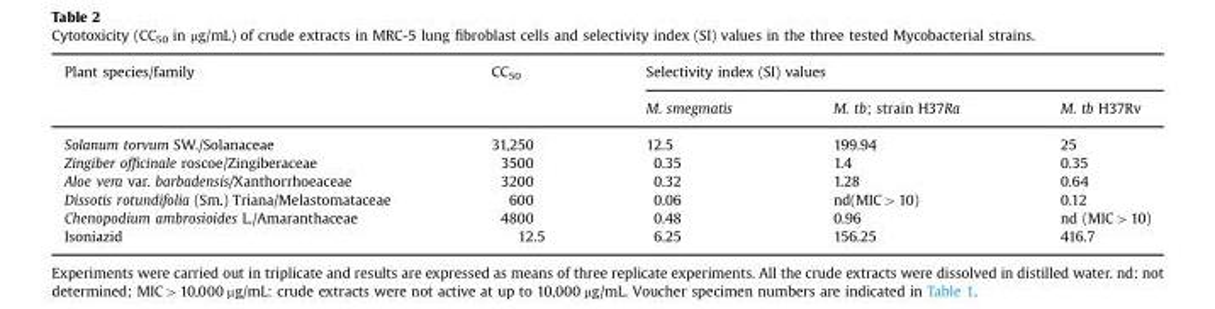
<table><thead><tr><td rowspan="2">Plant species/family</td><td rowspan="2">CC<sub>50</sub></td><td colspan="3">Selectivity index (SI) values</td></tr><tr><td>M. smegmatis</td><td>M. tb; strain H37Ra</td><td>M. tb H37Rv</td></tr></thead><tbody><tr><td>Solanum torvum SW./Solanaceae</td><td>31,250</td><td>12.5</td><td>199.94</td><td>25</td></tr><tr><td>Zingiber officinale roscoe/Zingiberaceae</td><td>3500</td><td>0.35</td><td>1.4</td><td>0.35</td></tr><tr><td>Aloe vera var. barbadensis/Xanthorrhoeaceae</td><td>3200</td><td>0.32</td><td>1.28</td><td>0.64</td></tr><tr><td>Dissotis rotundifolia (Sm.) Triana/Melastomataceae</td><td>600</td><td>0.06</td><td>nd(MIC&gt;10)</td><td>0.12</td></tr><tr><td>Chenopodium ambrosioides L./Amaranthaceae</td><td>4800</td><td>0.48</td><td>0.96</td><td>nd (MIC&gt;10)</td></tr><tr><td>Isoniazid</td><td>12.5</td><td>6.25</td><td>156.25</td><td>416.7</td></tr></tbody></table>